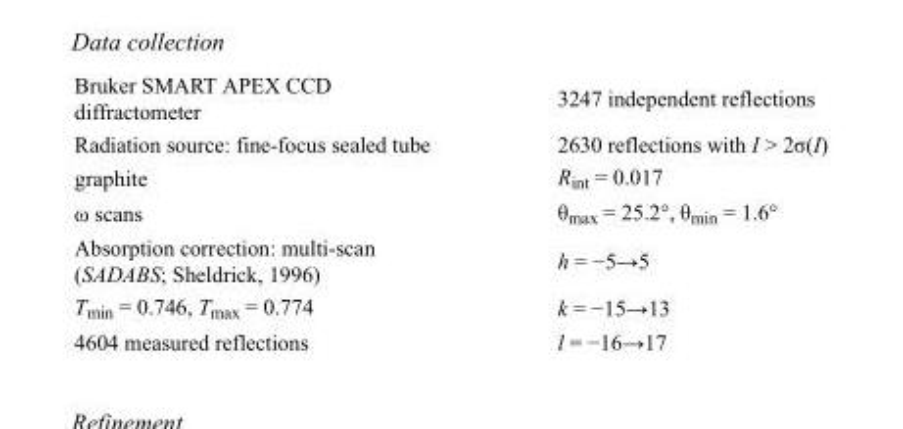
<table><tbody><tr><td>Bruker SMART APEX CCD diffractometer</td><td>3247 independent reflections</td></tr><tr><td>Radiation source: fine-focus sealed tube</td><td>2630 reflections with I &gt; 2σ(I)</td></tr><tr><td>graphite</td><td>R<sub>int</sub> = 0.017</td></tr><tr><td>ω scans</td><td>θ<sub>max</sub> = 25.2°, θ<sub>min</sub> = 1.6°</td></tr><tr><td>Absorption correction: multi-scan (SADABS; Sheldrick, 1996)</td><td>h = −5→5</td></tr><tr><td>T<sub>min</sub> = 0.746, T<sub>max</sub> = 0.774</td><td>k = −15→13</td></tr><tr><td>4604 measured reflections</td><td>l = −16→17</td></tr></tbody></table>